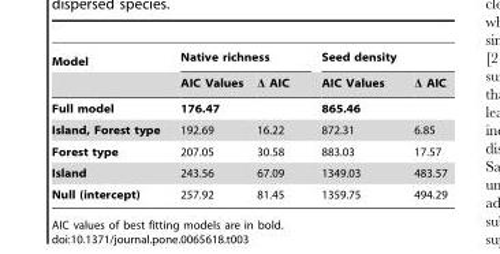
<table><thead><tr><td rowspan="2">Model</td><td colspan="2">Native richness</td><td colspan="2">Seed density</td></tr><tr><td>AIC Values</td><td>Δ AIC</td><td>AIC Values</td><td>Δ AIC</td></tr></thead><tbody><tr><td>Full model</td><td>176.47</td><td></td><td>865.46</td><td></td></tr><tr><td>Island, Forest type</td><td>192.69</td><td>16.22</td><td>872.31</td><td>6.85</td></tr><tr><td>Forest type</td><td>207.05</td><td>30.58</td><td>883.03</td><td>17.57</td></tr><tr><td>Island</td><td>243.56</td><td>67.09</td><td>1349.03</td><td>483.57</td></tr><tr><td>Null (intercept)</td><td>257.92</td><td>81.45</td><td>1359.75</td><td>494.29</td></tr></tbody></table>